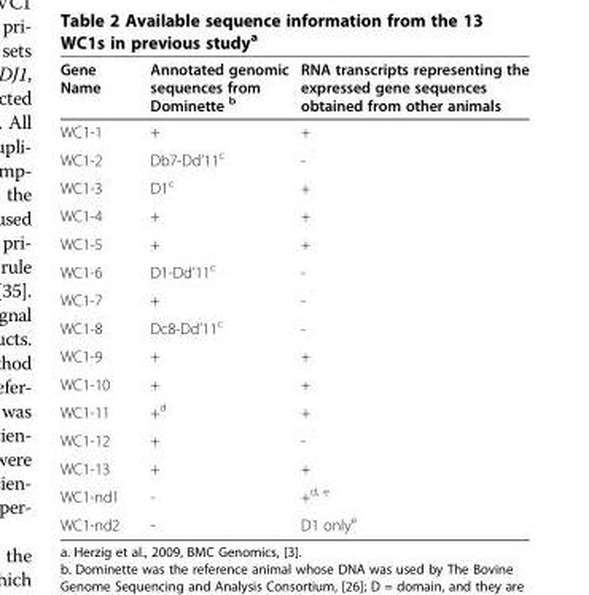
<table><thead><tr><td>Gene Name</td><td>Annotated genomic sequences from Dominette <sup>b</sup></td><td>RNA transcripts representing the expressed gene sequences obtained from other animals</td></tr></thead><tbody><tr><td>WC1-1</td><td>+</td><td>+</td></tr><tr><td>WC1-2</td><td>Db7-Dd’11<sup>c</sup></td><td>-</td></tr><tr><td>WC1-3</td><td>D1<sup>c</sup></td><td>+</td></tr><tr><td>WC1-4</td><td>+</td><td>+</td></tr><tr><td>WC1-5</td><td>+</td><td>+</td></tr><tr><td>WC1-6</td><td>D1-Dd’11<sup>c</sup></td><td>-</td></tr><tr><td>WC1-7</td><td>+</td><td>-</td></tr><tr><td>WC1-8</td><td>Dc8-Dd’11<sup>c</sup></td><td>-</td></tr><tr><td>WC1-9</td><td>+</td><td>+</td></tr><tr><td>WC1-10</td><td>+</td><td>+</td></tr><tr><td>WC1-11</td><td>+<sup>d</sup></td><td>+</td></tr><tr><td>WC1-12</td><td>+</td><td>-</td></tr><tr><td>WC1-13</td><td>+</td><td>+</td></tr><tr><td>WC1-nd1</td><td>-</td><td>+<sup>d, e</sup></td></tr><tr><td>WC1-nd2</td><td>-</td><td>D1 only<sup>e</sup></td></tr></tbody></table>